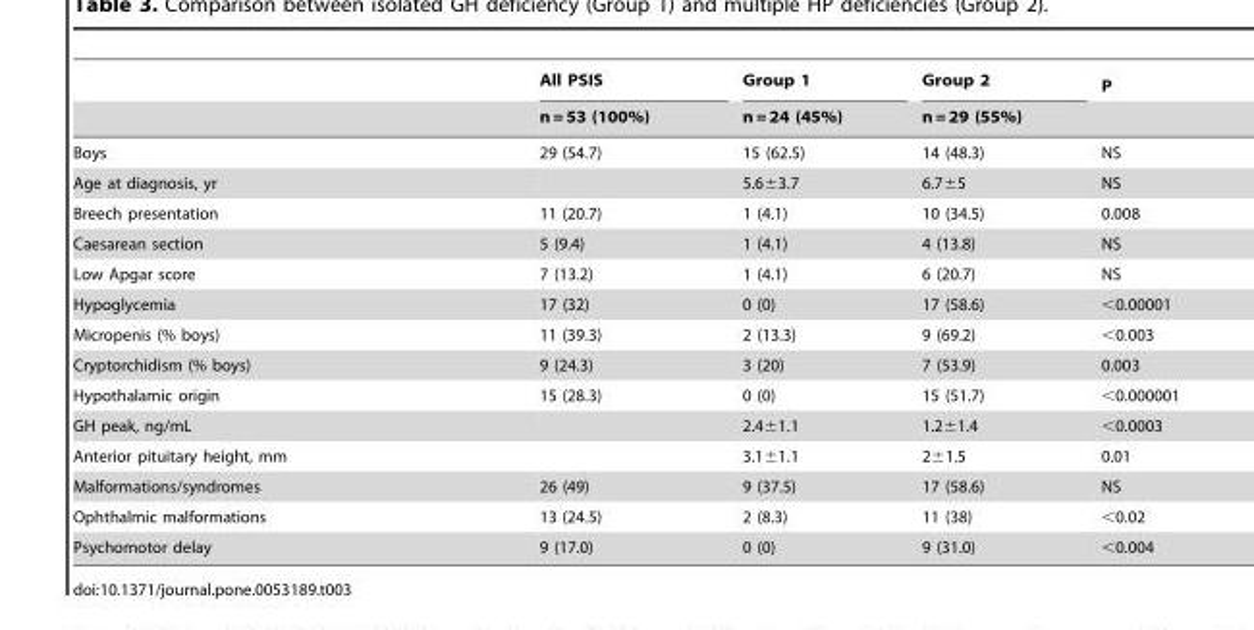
<table><thead><tr><td rowspan="2"></td><td rowspan="2">All PSIS n = 53 (100%)</td><td rowspan="2">Group 1 n = 24 (45%)</td><td rowspan="2">Group 2 n = 29 (55%)</td><td rowspan="2">P</td></tr><tr></tr></thead><tbody><tr><td>Boys</td><td>29 (54.7)</td><td>15 (62.5)</td><td>14 (48.3)</td><td>NS</td></tr><tr><td>Age at diagnosis, yr</td><td></td><td>5.6±3.7</td><td>6.7±5</td><td>NS</td></tr><tr><td>Breech presentation</td><td>11 (20.7)</td><td>1 (4.1)</td><td>10 (34.5)</td><td>0.008</td></tr><tr><td>Caesarean section</td><td>5 (9.4)</td><td>1 (4.1)</td><td>4 (13.8)</td><td>NS</td></tr><tr><td>Low Apgar score</td><td>7 (13.2)</td><td>1 (4.1)</td><td>6 (20.7)</td><td>NS</td></tr><tr><td>Hypoglycemia</td><td>17 (32)</td><td>0 (0)</td><td>17 (58.6)</td><td>&lt;0.00001</td></tr><tr><td>Micropenis (% boys)</td><td>11 (39.3)</td><td>2 (13.3)</td><td>9 (69.2)</td><td>&lt;0.003</td></tr><tr><td>Cryptorchidism (% boys)</td><td>9 (24.3)</td><td>3 (20)</td><td>7 (53.9)</td><td>0.003</td></tr><tr><td>Hypothalamic origin</td><td>15 (28.3)</td><td>0 (0)</td><td>15 (51.7)</td><td>&lt;0.000001</td></tr><tr><td>GH peak, ng/mL</td><td></td><td>2.4±1.1</td><td>1.2±1.4</td><td>&lt;0.0003</td></tr><tr><td>Anterior pituitary height, mm</td><td></td><td>3.1±1.1</td><td>2±1.5</td><td>0.01</td></tr><tr><td>Malformations/syndromes</td><td>26 (49)</td><td>9 (37.5)</td><td>17 (58.6)</td><td>NS</td></tr><tr><td>Ophthalmic malformations</td><td>13 (24.5)</td><td>2 (8.3)</td><td>11 (38)</td><td>&lt;0.02</td></tr><tr><td>Psychomotor delay</td><td>9 (17.0)</td><td>0 (0)</td><td>9 (31.0)</td><td>&lt;0.004</td></tr></tbody></table>